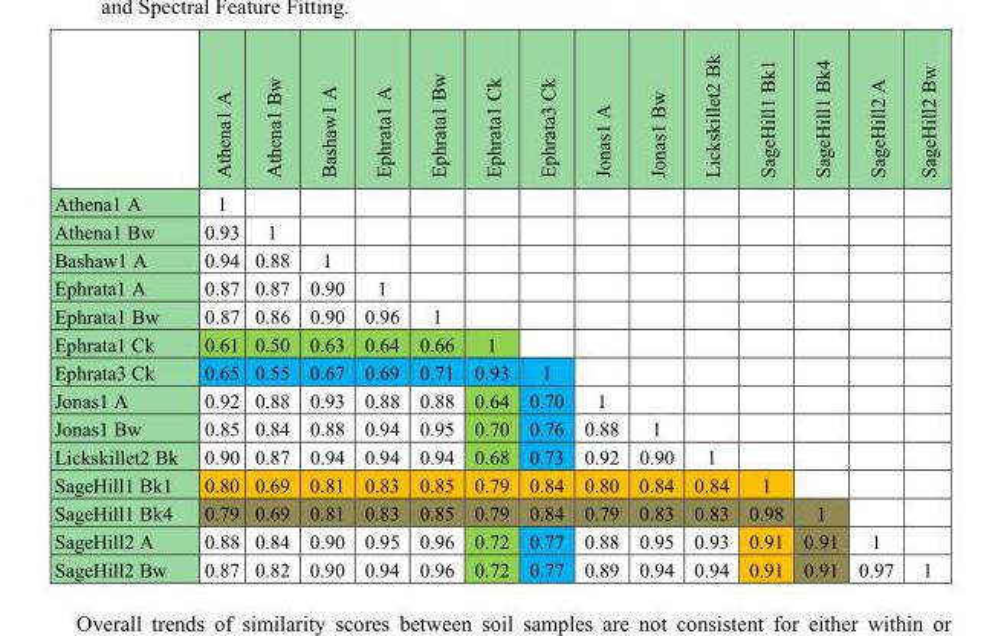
<table><thead><tr><td></td><td>Athena1 A</td><td>Athena1 Bw</td><td>Bashaw1 A</td><td>Ephrata1 A</td><td>Ephrata1 Bw</td><td>Ephrata1 Ck</td><td>Ephrata3 Ck</td><td>Jonas1 A</td><td>Jonas1 Bw</td><td>Lickskillet2 Bk</td><td>SageHill1 Bk1</td><td>SageHill1 Bk4</td><td>SageHill2 A</td><td>SageHill2 Bw</td></tr></thead><tbody><tr><td>Athena1 A</td><td>1</td><td></td><td></td><td></td><td></td><td></td><td></td><td></td><td></td><td></td><td></td><td></td><td></td><td></td></tr><tr><td>Athena1 Bw</td><td>0.93</td><td>1</td><td></td><td></td><td></td><td></td><td></td><td></td><td></td><td></td><td></td><td></td><td></td><td></td></tr><tr><td>Bashaw1 A</td><td>0.94</td><td>0.88</td><td>1</td><td></td><td></td><td></td><td></td><td></td><td></td><td></td><td></td><td></td><td></td><td></td></tr><tr><td>Ephrata1 A</td><td>0.87</td><td>0.87</td><td>0.90</td><td>1</td><td></td><td></td><td></td><td></td><td></td><td></td><td></td><td></td><td></td><td></td></tr><tr><td>Ephrata1 Bw</td><td>0.87</td><td>0.86</td><td>0.90</td><td>0.96</td><td>1</td><td></td><td></td><td></td><td></td><td></td><td></td><td></td><td></td><td></td></tr><tr><td>Ephrata1 Ck</td><td>0.61</td><td>0.50</td><td>0.63</td><td>0.64</td><td>0.66</td><td>1</td><td></td><td></td><td></td><td></td><td></td><td></td><td></td><td></td></tr><tr><td>Ephrata3 Ck</td><td>0.65</td><td>0.55</td><td>0.67</td><td>0.69</td><td>0.71</td><td>0.93</td><td>1</td><td></td><td></td><td></td><td></td><td></td><td></td><td></td></tr><tr><td>Jonas1 A</td><td>0.92</td><td>0.88</td><td>0.93</td><td>0.88</td><td>0.88</td><td>0.64</td><td>0.70</td><td>1</td><td></td><td></td><td></td><td></td><td></td><td></td></tr><tr><td>Jonas1 Bw</td><td>0.85</td><td>0.84</td><td>0.88</td><td>0.94</td><td>0.95</td><td>0.70</td><td>0.76</td><td>0.88</td><td>1</td><td></td><td></td><td></td><td></td><td></td></tr><tr><td>Lickskillet2 Bk</td><td>0.90</td><td>0.87</td><td>0.94</td><td>0.94</td><td>0.94</td><td>0.68</td><td>0.73</td><td>0.92</td><td>0.90</td><td>1</td><td></td><td></td><td></td><td></td></tr><tr><td>SageHill1 Bk1</td><td>0.80</td><td>0.69</td><td>0.81</td><td>0.83</td><td>0.85</td><td>0.79</td><td>0.84</td><td>0.80</td><td>0.84</td><td>0.84</td><td>1</td><td></td><td></td><td></td></tr><tr><td>SageHill1 Bk4</td><td>0.79</td><td>0.69</td><td>0.81</td><td>0.83</td><td>0.85</td><td>0.79</td><td>0.84</td><td>0.79</td><td>0.83</td><td>0.83</td><td>0.98</td><td>1</td><td></td><td></td></tr><tr><td>SageHill2 A</td><td>0.88</td><td>0.84</td><td>0.90</td><td>0.95</td><td>0.96</td><td>0.72</td><td>0.77</td><td>0.88</td><td>0.95</td><td>0.93</td><td>0.91</td><td>0.91</td><td>1</td><td></td></tr><tr><td>SageHill2 Bw</td><td>0.87</td><td>0.82</td><td>0.90</td><td>0.94</td><td>0.96</td><td>0.72</td><td>0.77</td><td>0.89</td><td>0.94</td><td>0.94</td><td>0.91</td><td>0.91</td><td>0.97</td><td>1</td></tr></tbody></table>